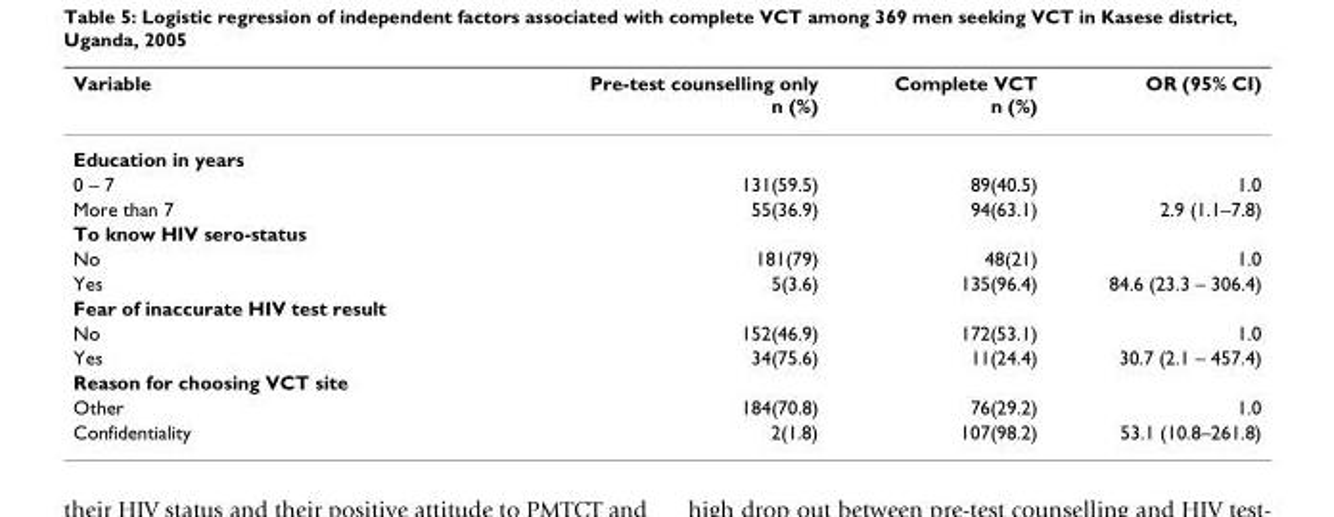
<table><thead><tr><td>Variable</td><td>Pre-test counselling only n (%)</td><td>Complete VCT n (%)</td><td>OR (95% CI)</td></tr></thead><tbody><tr><td colspan="4">Education in years</td></tr><tr><td>0 – 7</td><td>131(59.5)</td><td>89(40.5)</td><td>1.0</td></tr><tr><td>More than 7</td><td>55(36.9)</td><td>94(63.1)</td><td>2.9 (1.1–7.8)</td></tr><tr><td colspan="4">To know HIV sero-status</td></tr><tr><td>No</td><td>181(79)</td><td>48(21)</td><td>1.0</td></tr><tr><td>Yes</td><td>5(3.6)</td><td>135(96.4)</td><td>84.6 (23.3 – 306.4)</td></tr><tr><td colspan="4">Fear of inaccurate HIV test result</td></tr><tr><td>No</td><td>152(46.9)</td><td>172(53.1)</td><td>1.0</td></tr><tr><td>Yes</td><td>34(75.6)</td><td>11(24.4)</td><td>30.7 (2.1 – 457.4)</td></tr><tr><td colspan="4">Reason for choosing VCT site</td></tr><tr><td>Other</td><td>184(70.8)</td><td>76(29.2)</td><td>1.0</td></tr><tr><td>Confidentiality</td><td>2(1.8)</td><td>107(98.2)</td><td>53.1 (10.8–261.8)</td></tr></tbody></table>